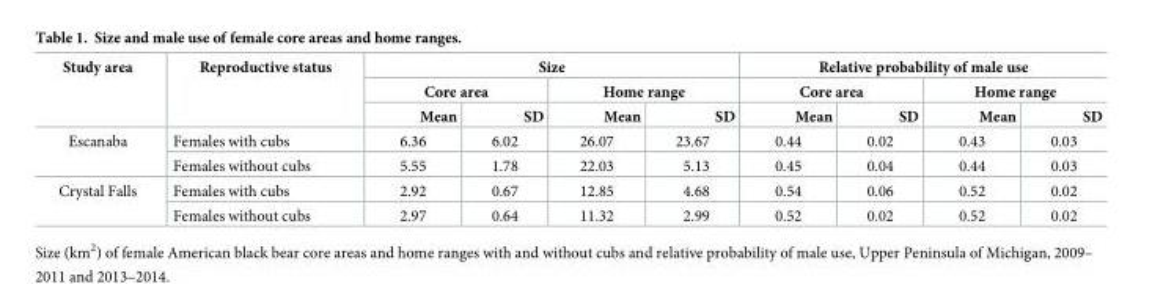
<table><thead><tr><td rowspan="3">Study area</td><td rowspan="3">Reproductive status</td><td colspan="4">Size</td><td colspan="4">Relative probability of male use</td></tr><tr><td colspan="2">Core area</td><td colspan="2">Home range</td><td colspan="2">Core area</td><td colspan="2">Home range</td></tr><tr><td>Mean</td><td>SD</td><td>Mean</td><td>SD</td><td>Mean</td><td>SD</td><td>Mean</td><td>SD</td></tr></thead><tbody><tr><td rowspan="2">Escanaba</td><td>Females with cubs</td><td>6.36</td><td>6.02</td><td>26.07</td><td>23.67</td><td>0.44</td><td>0.02</td><td>0.43</td><td>0.03</td></tr><tr><td>Females without cubs</td><td>5.55</td><td>1.78</td><td>22.03</td><td>5.13</td><td>0.45</td><td>0.04</td><td>0.44</td><td>0.03</td></tr><tr><td rowspan="2">Crystal Falls</td><td>Females with cubs</td><td>2.92</td><td>0.67</td><td>12.85</td><td>4.68</td><td>0.54</td><td>0.06</td><td>0.52</td><td>0.02</td></tr><tr><td>Females without cubs</td><td>2.97</td><td>0.64</td><td>11.32</td><td>2.99</td><td>0.52</td><td>0.02</td><td>0.52</td><td>0.02</td></tr></tbody></table>